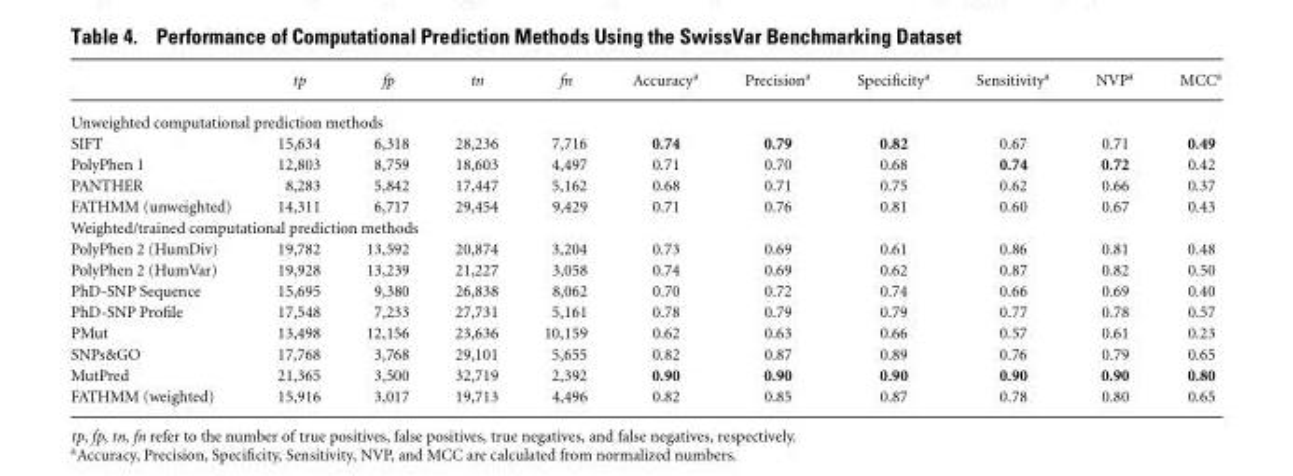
<table><thead><tr><td></td><td>tp</td><td>fp</td><td>tn</td><td>fn</td><td>Accuracy<sup>a</sup></td><td>Precision<sup>a</sup></td><td>Specificity<sup>a</sup></td><td>Sensitivity<sup>a</sup></td><td>NVP<sup>a</sup></td><td>MCC<sup>a</sup></td></tr></thead><tbody><tr><td colspan="11">Unweighted computational prediction methods</td></tr><tr><td>SIFT</td><td>15,634</td><td>6,318</td><td>28,236</td><td>7,716</td><td>0.74</td><td>0.79</td><td>0.82</td><td>0.67</td><td>0.71</td><td>0.49</td></tr><tr><td>PolyPhen 1</td><td>12,803</td><td>8,759</td><td>18,603</td><td>4,497</td><td>0.71</td><td>0.70</td><td>0.68</td><td>0.74</td><td>0.72</td><td>0.42</td></tr><tr><td>PANTHER</td><td>8,283</td><td>5,842</td><td>17,447</td><td>5,162</td><td>0.68</td><td>0.71</td><td>0.75</td><td>0.62</td><td>0.66</td><td>0.37</td></tr><tr><td>FATHMM (unweighted)</td><td>14,311</td><td>6,717</td><td>29,454</td><td>9,429</td><td>0.71</td><td>0.76</td><td>0.81</td><td>0.60</td><td>0.67</td><td>0.43</td></tr><tr><td colspan="11">Weighted/trained computational prediction methods</td></tr><tr><td>PolyPhen 2 (HumDiv)</td><td>19,782</td><td>13,592</td><td>20,874</td><td>3,204</td><td>0.73</td><td>0.69</td><td>0.61</td><td>0.86</td><td>0.81</td><td>0.48</td></tr><tr><td>PolyPhen 2 (HumVar)</td><td>19,928</td><td>13,239</td><td>21,227</td><td>3,058</td><td>0.74</td><td>0.69</td><td>0.62</td><td>0.87</td><td>0.82</td><td>0.50</td></tr><tr><td>PhD-SNP Sequence</td><td>15,695</td><td>9,380</td><td>26,838</td><td>8,062</td><td>0.70</td><td>0.72</td><td>0.74</td><td>0.66</td><td>0.69</td><td>0.40</td></tr><tr><td>PhD-SNP Profile</td><td>17,548</td><td>7,233</td><td>27,731</td><td>5,161</td><td>0.78</td><td>0.79</td><td>0.79</td><td>0.77</td><td>0.78</td><td>0.57</td></tr><tr><td>PMut</td><td>13,498</td><td>12,156</td><td>23,636</td><td>10,159</td><td>0.62</td><td>0.63</td><td>0.66</td><td>0.57</td><td>0.61</td><td>0.23</td></tr><tr><td>SNPs&amp;GO</td><td>17,768</td><td>3,768</td><td>29,101</td><td>5,655</td><td>0.82</td><td>0.87</td><td>0.89</td><td>0.76</td><td>0.79</td><td>0.65</td></tr><tr><td>MutPred</td><td>21,365</td><td>3,500</td><td>32,719</td><td>2,392</td><td>0.90</td><td>0.90</td><td>0.90</td><td>0.90</td><td>0.90</td><td>0.80</td></tr><tr><td>FATHMM (weighted)</td><td>15,916</td><td>3,017</td><td>19,713</td><td>4,496</td><td>0.82</td><td>0.85</td><td>0.87</td><td>0.78</td><td>0.80</td><td>0.65</td></tr></tbody></table>